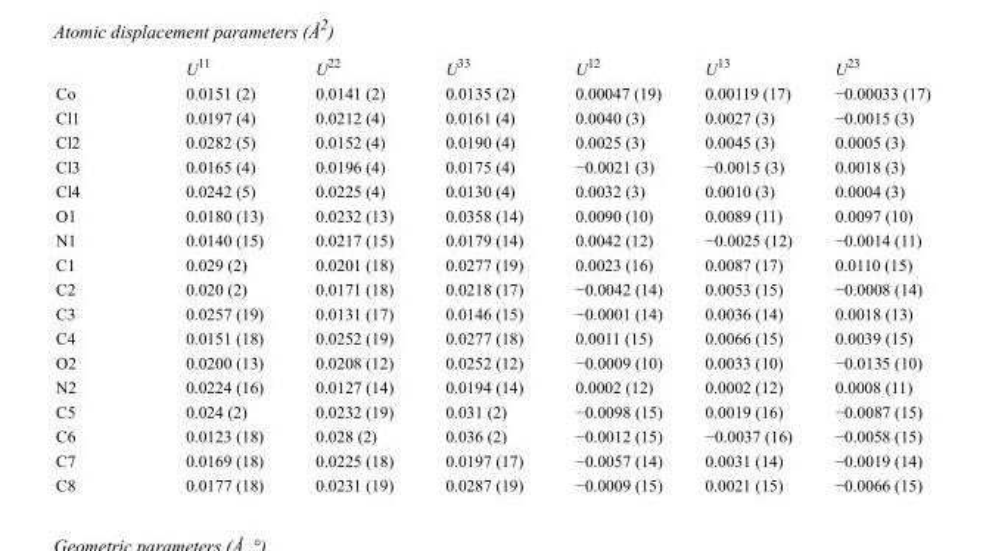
<table><thead><tr><td></td><td>U<sup>11</sup></td><td>U<sup>22</sup></td><td>U<sup>33</sup></td><td>U<sup>12</sup></td><td>U<sup>13</sup></td><td>U<sup>23</sup></td></tr></thead><tbody><tr><td>Co</td><td>0.0151 (2)</td><td>0.0141 (2)</td><td>0.0135 (2)</td><td>0.00047 (19)</td><td>0.00119 (17)</td><td>−0.00033 (17)</td></tr><tr><td>Cl1</td><td>0.0197 (4)</td><td>0.0212 (4)</td><td>0.0161 (4)</td><td>0.0040 (3)</td><td>0.0027 (3)</td><td>−0.0015 (3)</td></tr><tr><td>Cl2</td><td>0.0282 (5)</td><td>0.0152 (4)</td><td>0.0190 (4)</td><td>0.0025 (3)</td><td>0.0045 (3)</td><td>0.0005 (3)</td></tr><tr><td>Cl3</td><td>0.0165 (4)</td><td>0.0196 (4)</td><td>0.0175 (4)</td><td>−0.0021 (3)</td><td>−0.0015 (3)</td><td>0.0018 (3)</td></tr><tr><td>Cl4</td><td>0.0242 (5)</td><td>0.0225 (4)</td><td>0.0130 (4)</td><td>0.0032 (3)</td><td>0.0010 (3)</td><td>0.0004 (3)</td></tr><tr><td>O1</td><td>0.0180 (13)</td><td>0.0232 (13)</td><td>0.0358 (14)</td><td>0.0090 (10)</td><td>0.0089 (11)</td><td>0.0097 (10)</td></tr><tr><td>N1</td><td>0.0140 (15)</td><td>0.0217 (15)</td><td>0.0179 (14)</td><td>0.0042 (12)</td><td>−0.0025 (12)</td><td>−0.0014 (11)</td></tr><tr><td>C1</td><td>0.029 (2)</td><td>0.0201 (18)</td><td>0.0277 (19)</td><td>0.0023 (16)</td><td>0.0087 (17)</td><td>0.0110 (15)</td></tr><tr><td>C2</td><td>0.020 (2)</td><td>0.0171 (18)</td><td>0.0218 (17)</td><td>−0.0042 (14)</td><td>0.0053 (15)</td><td>−0.0008 (14)</td></tr><tr><td>C3</td><td>0.0257 (19)</td><td>0.0131 (17)</td><td>0.0146 (15)</td><td>−0.0001 (14)</td><td>0.0036 (14)</td><td>0.0018 (13)</td></tr><tr><td>C4</td><td>0.0151 (18)</td><td>0.0252 (19)</td><td>0.0277 (18)</td><td>0.0011 (15)</td><td>0.0066 (15)</td><td>0.0039 (15)</td></tr><tr><td>O2</td><td>0.0200 (13)</td><td>0.0208 (12)</td><td>0.0252 (12)</td><td>−0.0009 (10)</td><td>0.0033 (10)</td><td>−0.0135 (10)</td></tr><tr><td>N2</td><td>0.0224 (16)</td><td>0.0127 (14)</td><td>0.0194 (14)</td><td>0.0002 (12)</td><td>0.0002 (12)</td><td>0.0008 (11)</td></tr><tr><td>C5</td><td>0.024 (2)</td><td>0.0232 (19)</td><td>0.031 (2)</td><td>−0.0098 (15)</td><td>0.0019 (16)</td><td>−0.0087 (15)</td></tr><tr><td>C6</td><td>0.0123 (18)</td><td>0.028 (2)</td><td>0.036 (2)</td><td>−0.0012 (15)</td><td>−0.0037 (16)</td><td>−0.0058 (15)</td></tr><tr><td>C7</td><td>0.0169 (18)</td><td>0.0225 (18)</td><td>0.0197 (17)</td><td>−0.0057 (14)</td><td>0.0031 (14)</td><td>−0.0019 (14)</td></tr><tr><td>C8</td><td>0.0177 (18)</td><td>0.0231 (19)</td><td>0.0287 (19)</td><td>−0.0009 (15)</td><td>0.0021 (15)</td><td>−0.0066 (15)</td></tr></tbody></table>